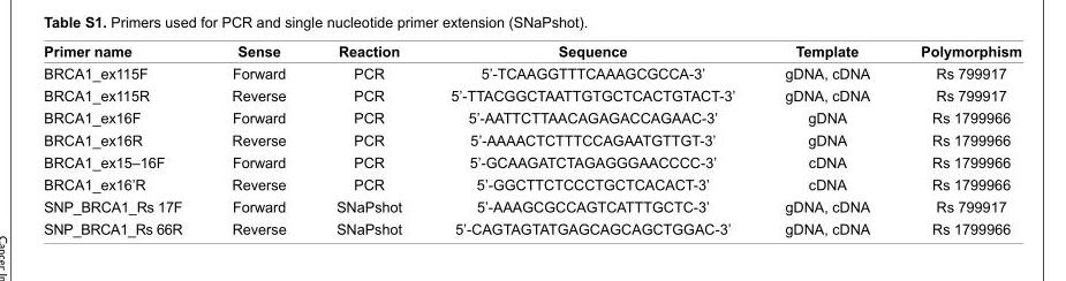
<table><thead><tr><td>Primer name</td><td>Sense</td><td>Reaction</td><td>Sequence</td><td>Template</td><td>Polymorphism</td></tr></thead><tbody><tr><td>BRCA1_ex115F</td><td>Forward</td><td>PCR</td><td>5’-TCAAGGTTTCAAAGCGCCA-3’</td><td>gDNA, cDNA</td><td>Rs 799917</td></tr><tr><td>BRCA1_ex115R</td><td>Reverse</td><td>PCR</td><td>5’-TTACGGCTAATTGTGCTCACTGTACT-3’</td><td>gDNA, cDNA</td><td>Rs 799917</td></tr><tr><td>BRCA1_ex16F</td><td>Forward</td><td>PCR</td><td>5’-AATTCTTAACAGAGACCAGAAC-3’</td><td>gDNA</td><td>Rs 1799966</td></tr><tr><td>BRCA1_ex16R</td><td>Reverse</td><td>PCR</td><td>5’-AAAACTCTTTCCAGAATGTTGT-3’</td><td>gDNA</td><td>Rs 1799966</td></tr><tr><td>BRCA1_ex15–16F</td><td>Forward</td><td>PCR</td><td>5’-GCAAGATCTAGAGGGAACCCC-3’</td><td>cDNA</td><td>Rs 1799966</td></tr><tr><td>BRCA1_ex16’R</td><td>Reverse</td><td>PCR</td><td>5’-GGCTTCTCCCTGCTCACACT-3’</td><td>cDNA</td><td>Rs 1799966</td></tr><tr><td>SNP_BRCA1_Rs 17F</td><td>Forward</td><td>SNaPshot</td><td>5’-AAAGCGCCAGTCATTTGCTC-3’</td><td>gDNA, cDNA</td><td>Rs 799917</td></tr><tr><td>SNP_BRCA1_Rs 66R</td><td>Reverse</td><td>SNaPshot</td><td>5’-CAGTAGTATGAGCAGCAGCTGGAC-3’</td><td>gDNA, cDNA</td><td>Rs 1799966</td></tr></tbody></table>